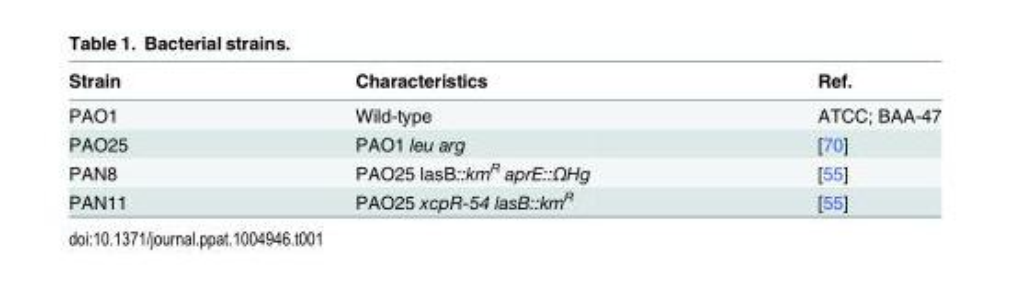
<table><thead><tr><td>Strain</td><td>Characteristics</td><td>Ref.</td></tr></thead><tbody><tr><td>PAO1</td><td>Wild-type</td><td>ATCC; BAA-47</td></tr><tr><td>PAO25</td><td>PAO1 leu arg</td><td>[70]</td></tr><tr><td>PAN8</td><td>PAO25 lasB::km<sup>R</sup> aprE::ΩHg</td><td>[55]</td></tr><tr><td>PAN11</td><td>PAO25 xcpR-54 lasB::km<sup>R</sup></td><td>[55]</td></tr></tbody></table>